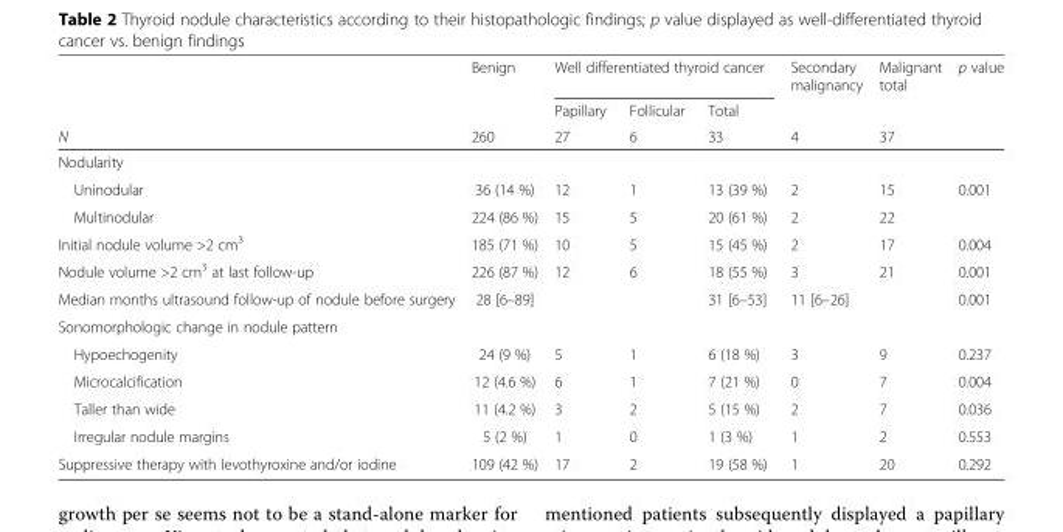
<table><thead><tr><td rowspan="3">N</td><td rowspan="3">Benign 260</td><td colspan="3">Well differentiated thyroid cancer</td><td rowspan="3">Secondary malignancy 4</td><td rowspan="3">Malignant total 37</td><td rowspan="3">p value</td></tr><tr><td rowspan="2">Papillary 27</td><td rowspan="2">Follicular 6</td><td rowspan="2">Total 33</td></tr><tr></tr></thead><tbody><tr><td colspan="8">Nodularity</td></tr><tr><td>Uninodular</td><td>36 (14 %)</td><td>12</td><td>1</td><td>13 (39 %)</td><td>2</td><td>15</td><td rowspan="2">0.001</td></tr><tr><td>Multinodular</td><td>224 (86 %)</td><td>15</td><td>5</td><td>20 (61 %)</td><td>2</td><td>22</td></tr><tr><td>Initial nodule volume &gt;2 cm<sup>3</sup></td><td>185 (71 %)</td><td>10</td><td>5</td><td>15 (45 %)</td><td>2</td><td>17</td><td>0.004</td></tr><tr><td>Nodule volume &gt;2 cm<sup>3</sup> at last follow-up</td><td>226 (87 %)</td><td>12</td><td>6</td><td>18 (55 %)</td><td>3</td><td>21</td><td>0.001</td></tr><tr><td>Median months ultrasound follow-up of nodule before surgery</td><td>28 [6–89]</td><td></td><td></td><td>31 [6–53]</td><td>11 [6–26]</td><td></td><td>0.001</td></tr><tr><td colspan="8">Sonomorphologic change in nodule pattern</td></tr><tr><td>Hypoechogenity</td><td>24 (9 %)</td><td>5</td><td>1</td><td>6 (18 %)</td><td>3</td><td>9</td><td>0.237</td></tr><tr><td>Microcalcification</td><td>12 (4.6 %)</td><td>6</td><td>1</td><td>7 (21 %)</td><td>0</td><td>7</td><td>0.004</td></tr><tr><td>Taller than wide</td><td>11 (4.2 %)</td><td>3</td><td>2</td><td>5 (15 %)</td><td>2</td><td>7</td><td>0.036</td></tr><tr><td>Irregular nodule margins</td><td>5 (2 %)</td><td>1</td><td>0</td><td>1 (3 %)</td><td>1</td><td>2</td><td>0.553</td></tr><tr><td>Suppressive therapy with levothyroxine and/or iodine</td><td>109 (42 %)</td><td>17</td><td>2</td><td>19 (58 %)</td><td>1</td><td>20</td><td>0.292</td></tr></tbody></table>